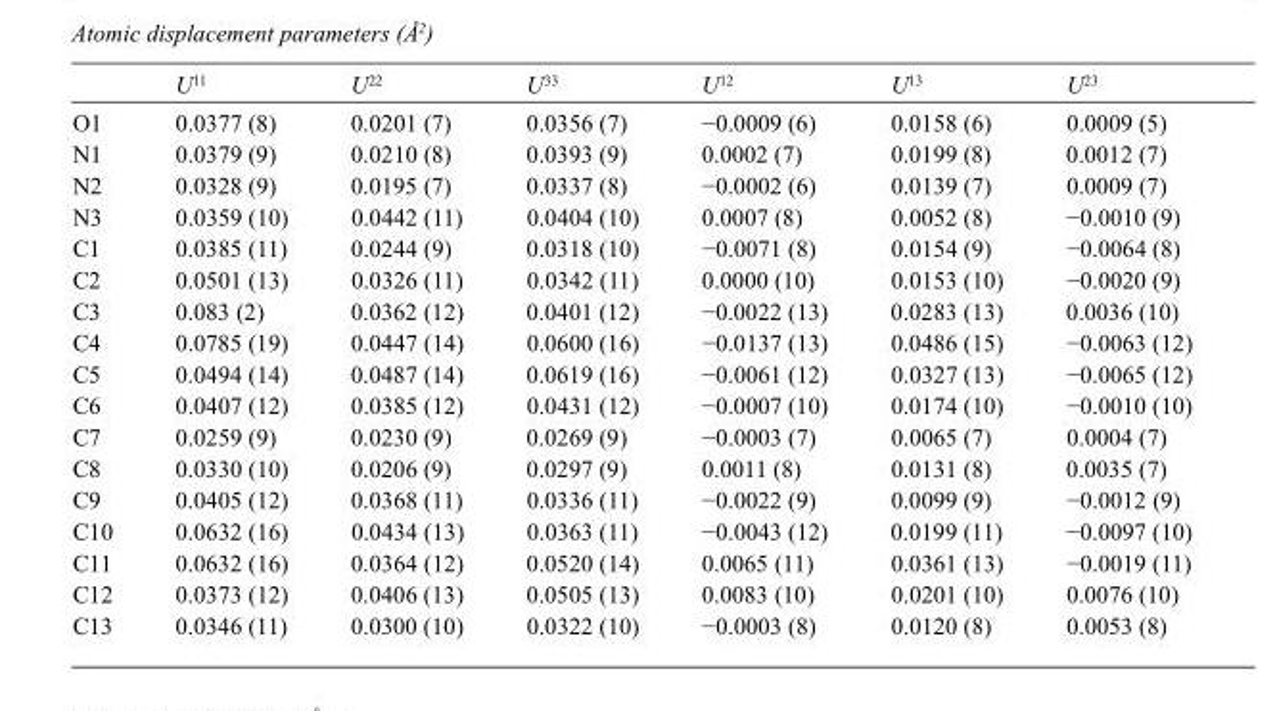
<table><thead><tr><td></td><td>U<sup>11</sup></td><td>U<sup>22</sup></td><td>U<sup>33</sup></td><td>U<sup>12</sup></td><td>U<sup>13</sup></td><td>U<sup>23</sup></td></tr></thead><tbody><tr><td>O1</td><td>0.0377 (8)</td><td>0.0201 (7)</td><td>0.0356 (7)</td><td>−0.0009 (6)</td><td>0.0158 (6)</td><td>0.0009 (5)</td></tr><tr><td>N1</td><td>0.0379 (9)</td><td>0.0210 (8)</td><td>0.0393 (9)</td><td>0.0002 (7)</td><td>0.0199 (8)</td><td>0.0012 (7)</td></tr><tr><td>N2</td><td>0.0328 (9)</td><td>0.0195 (7)</td><td>0.0337 (8)</td><td>−0.0002 (6)</td><td>0.0139 (7)</td><td>0.0009 (7)</td></tr><tr><td>N3</td><td>0.0359 (10)</td><td>0.0442 (11)</td><td>0.0404 (10)</td><td>0.0007 (8)</td><td>0.0052 (8)</td><td>−0.0010 (9)</td></tr><tr><td>C1</td><td>0.0385 (11)</td><td>0.0244 (9)</td><td>0.0318 (10)</td><td>−0.0071 (8)</td><td>0.0154 (9)</td><td>−0.0064 (8)</td></tr><tr><td>C2</td><td>0.0501 (13)</td><td>0.0326 (11)</td><td>0.0342 (11)</td><td>0.0000 (10)</td><td>0.0153 (10)</td><td>−0.0020 (9)</td></tr><tr><td>C3</td><td>0.083 (2)</td><td>0.0362 (12)</td><td>0.0401 (12)</td><td>−0.0022 (13)</td><td>0.0283 (13)</td><td>0.0036 (10)</td></tr><tr><td>C4</td><td>0.0785 (19)</td><td>0.0447 (14)</td><td>0.0600 (16)</td><td>−0.0137 (13)</td><td>0.0486 (15)</td><td>−0.0063 (12)</td></tr><tr><td>C5</td><td>0.0494 (14)</td><td>0.0487 (14)</td><td>0.0619 (16)</td><td>−0.0061 (12)</td><td>0.0327 (13)</td><td>−0.0065 (12)</td></tr><tr><td>C6</td><td>0.0407 (12)</td><td>0.0385 (12)</td><td>0.0431 (12)</td><td>−0.0007 (10)</td><td>0.0174 (10)</td><td>−0.0010 (10)</td></tr><tr><td>C7</td><td>0.0259 (9)</td><td>0.0230 (9)</td><td>0.0269 (9)</td><td>−0.0003 (7)</td><td>0.0065 (7)</td><td>0.0004 (7)</td></tr><tr><td>C8</td><td>0.0330 (10)</td><td>0.0206 (9)</td><td>0.0297 (9)</td><td>0.0011 (8)</td><td>0.0131 (8)</td><td>0.0035 (7)</td></tr><tr><td>C9</td><td>0.0405 (12)</td><td>0.0368 (11)</td><td>0.0336 (11)</td><td>−0.0022 (9)</td><td>0.0099 (9)</td><td>−0.0012 (9)</td></tr><tr><td>C10</td><td>0.0632 (16)</td><td>0.0434 (13)</td><td>0.0363 (11)</td><td>−0.0043 (12)</td><td>0.0199 (11)</td><td>−0.0097 (10)</td></tr><tr><td>C11</td><td>0.0632 (16)</td><td>0.0364 (12)</td><td>0.0520 (14)</td><td>0.0065 (11)</td><td>0.0361 (13)</td><td>−0.0019 (11)</td></tr><tr><td>C12</td><td>0.0373 (12)</td><td>0.0406 (13)</td><td>0.0505 (13)</td><td>0.0083 (10)</td><td>0.0201 (10)</td><td>0.0076 (10)</td></tr><tr><td>C13</td><td>0.0346 (11)</td><td>0.0300 (10)</td><td>0.0322 (10)</td><td>−0.0003 (8)</td><td>0.0120 (8)</td><td>0.0053 (8)</td></tr></tbody></table>